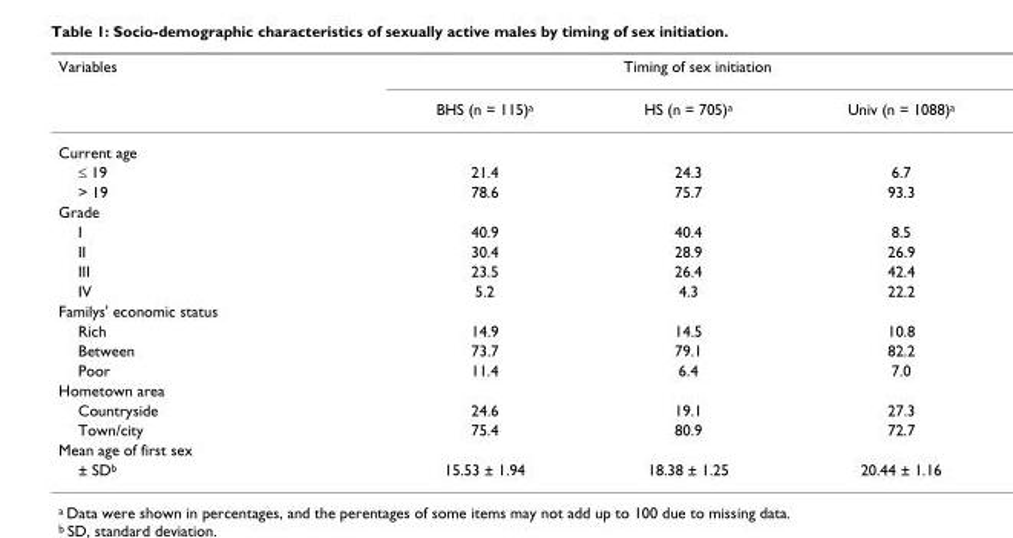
<table><thead><tr><td rowspan="2">Variables</td><td colspan="3">Timing of sex initiation</td></tr><tr><td>BHS (n = 115)<sup>a</sup></td><td>HS (n = 705)<sup>a</sup></td><td>Univ (n = 1088)<sup>a</sup></td></tr></thead><tbody><tr><td colspan="4">Current age</td></tr><tr><td>≤ 19</td><td>21.4</td><td>24.3</td><td>6.7</td></tr><tr><td>&gt; 19</td><td>78.6</td><td>75.7</td><td>93.3</td></tr><tr><td colspan="4">Grade</td></tr><tr><td>I</td><td>40.9</td><td>40.4</td><td>8.5</td></tr><tr><td>II</td><td>30.4</td><td>28.9</td><td>26.9</td></tr><tr><td>III</td><td>23.5</td><td>26.4</td><td>42.4</td></tr><tr><td>IV</td><td>5.2</td><td>4.3</td><td>22.2</td></tr><tr><td colspan="4">Familys&#x27; economic status</td></tr><tr><td>Rich</td><td>14.9</td><td>14.5</td><td>10.8</td></tr><tr><td>Between</td><td>73.7</td><td>79.1</td><td>82.2</td></tr><tr><td>Poor</td><td>11.4</td><td>6.4</td><td>7.0</td></tr><tr><td colspan="4">Hometown area</td></tr><tr><td>Countryside</td><td>24.6</td><td>19.1</td><td>27.3</td></tr><tr><td>Town/city</td><td>75.4</td><td>80.9</td><td>72.7</td></tr><tr><td colspan="4">Mean age of first sex</td></tr><tr><td>± SD<sup>b</sup></td><td>15.53 ± 1.94</td><td>18.38 ± 1.25</td><td>20.44 ± 1.16</td></tr></tbody></table>